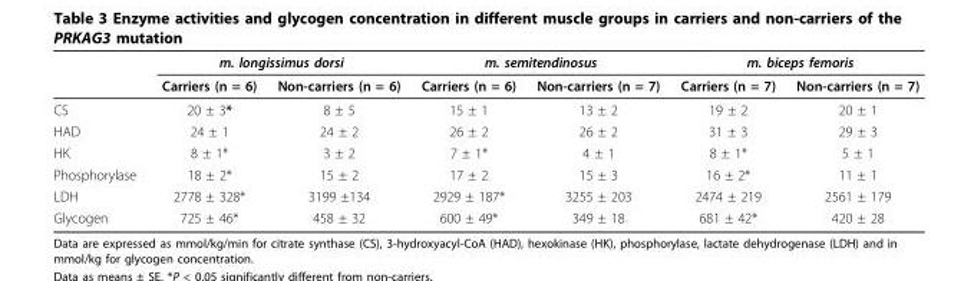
<table><thead><tr><td rowspan="2"></td><td colspan="2">m. longissimus dorsi</td><td colspan="2">m. semitendinosus</td><td colspan="2">m. biceps femoris</td></tr><tr><td>Carriers (n = 6)</td><td>Non-carriers (n = 6)</td><td>Carriers (n = 6)</td><td>Non-carriers (n = 7)</td><td>Carriers (n = 7)</td><td>Non-carriers (n = 7)</td></tr></thead><tbody><tr><td>CS</td><td>20 ± 3*</td><td>8 ± 5</td><td>15 ± 1</td><td>13 ± 2</td><td>19 ± 2</td><td>20 ± 1</td></tr><tr><td>HAD</td><td>24 ± 1</td><td>24 ± 2</td><td>26 ± 2</td><td>26 ± 2</td><td>31 ± 3</td><td>29 ± 3</td></tr><tr><td>HK</td><td>8 ± 1*</td><td>3 ± 2</td><td>7 ± 1*</td><td>4 ± 1</td><td>8 ± 1*</td><td>5 ± 1</td></tr><tr><td>Phosphorylase</td><td>18 ± 2*</td><td>15 ± 2</td><td>17 ± 2</td><td>15 ± 3</td><td>16 ± 2*</td><td>11 ± 1</td></tr><tr><td>LDH</td><td>2778 ± 328*</td><td>3199 ±134</td><td>2929 ± 187*</td><td>3255 ± 203</td><td>2474 ± 219</td><td>2561 ± 179</td></tr><tr><td>Glycogen</td><td>725 ± 46*</td><td>458 ± 32</td><td>600 ± 49*</td><td>349 ± 18</td><td>681 ± 42*</td><td>420 ± 28</td></tr></tbody></table>